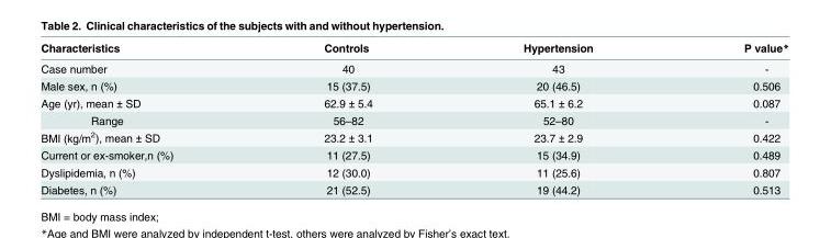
<table><thead><tr><td>Characteristics</td><td>Controls</td><td>Hypertension</td><td>P value*</td></tr></thead><tbody><tr><td>Case number</td><td>40</td><td>43</td><td>-</td></tr><tr><td>Male sex, n (%)</td><td>15 (37.5)</td><td>20 (46.5)</td><td>0.506</td></tr><tr><td>Age (yr), mean ± SD</td><td>62.9 ± 5.4</td><td>65.1 ± 6.2</td><td>0.087</td></tr><tr><td>Range</td><td>56–82</td><td>52–80</td><td>-</td></tr><tr><td>BMI (kg/m<sup>2</sup>), mean ± SD</td><td>23.2 ± 3.1</td><td>23.7 ± 2.9</td><td>0.422</td></tr><tr><td>Current or ex-smoker,n (%)</td><td>11 (27.5)</td><td>15 (34.9)</td><td>0.489</td></tr><tr><td>Dyslipidemia, n (%)</td><td>12 (30.0)</td><td>11 (25.6)</td><td>0.807</td></tr><tr><td>Diabetes, n (%)</td><td>21 (52.5)</td><td>19 (44.2)</td><td>0.513</td></tr></tbody></table>